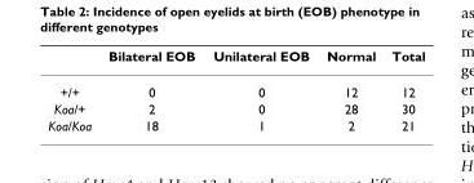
<table><thead><tr><td></td><td>Bilateral EOB</td><td>Unilateral EOB</td><td>Normal</td><td>Total</td></tr></thead><tbody><tr><td>+/+</td><td>0</td><td>0</td><td>12</td><td>12</td></tr><tr><td>Koa/+</td><td>2</td><td>0</td><td>28</td><td>30</td></tr><tr><td>Koa/Koa</td><td>18</td><td>1</td><td>2</td><td>21</td></tr></tbody></table>